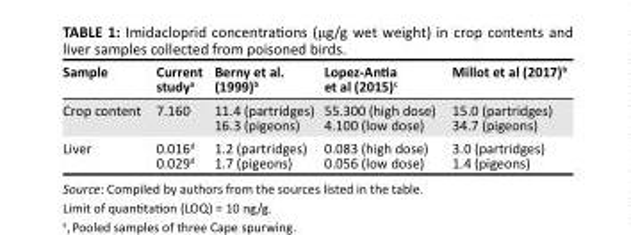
<table><thead><tr><td>Sample</td><td>Current study<sup>a</sup></td><td>Berny et al. (1999)<sup>b</sup></td><td>Lopez-Antia et al (2015)<sup>c</sup></td><td>Millot et al (2017)<sup>b</sup></td></tr></thead><tbody><tr><td>Crop content</td><td>7.160</td><td>11.4 (partridges) 16.3 (pigeons)</td><td>55.300 (high dose) 4.100 (low dose)</td><td>15.0 (partridges) 34.7 (pigeons)</td></tr><tr><td>Liver</td><td>0.016<sup>d</sup> 0.029<sup>d</sup></td><td>1.2 (partridges) 1.7 (pigeons)</td><td>0.083 (high dose) 0.056 (low dose)</td><td>3.0 (partridges) 1.4 (pigeons)</td></tr></tbody></table>